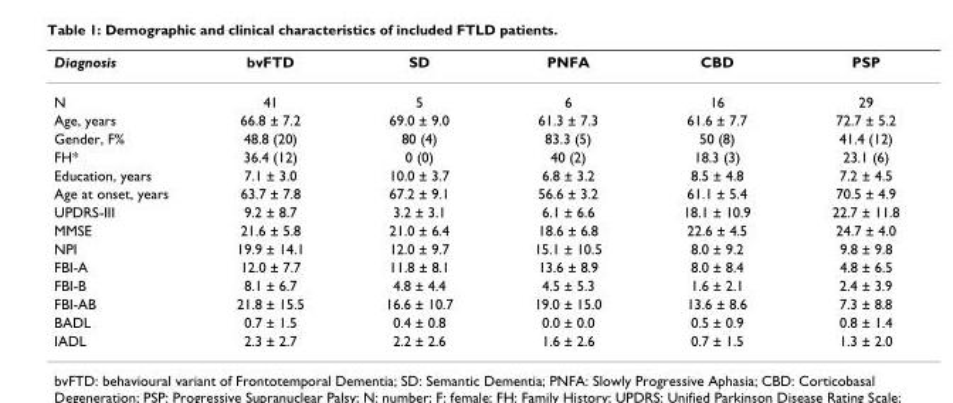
<table><thead><tr><td>Diagnosis</td><td>bvFTD</td><td>SD</td><td>PNFA</td><td>CBD</td><td>PSP</td></tr></thead><tbody><tr><td>N</td><td>41</td><td>5</td><td>6</td><td>16</td><td>29</td></tr><tr><td>Age, years</td><td>66.8 ± 7.2</td><td>69.0 ± 9.0</td><td>61.3 ± 7.3</td><td>61.6 ± 7.7</td><td>72.7 ± 5.2</td></tr><tr><td>Gender, F%</td><td>48.8 (20)</td><td>80 (4)</td><td>83.3 (5)</td><td>50 (8)</td><td>41.4 (12)</td></tr><tr><td>FH*</td><td>36.4 (12)</td><td>0 (0)</td><td>40 (2)</td><td>18.3 (3)</td><td>23.1 (6)</td></tr><tr><td>Education, years</td><td>7.1 ± 3.0</td><td>10.0 ± 3.7</td><td>6.8 ± 3.2</td><td>8.5 ± 4.8</td><td>7.2 ± 4.5</td></tr><tr><td>Age at onset, years</td><td>63.7 ± 7.8</td><td>67.2 ± 9.1</td><td>56.6 ± 3.2</td><td>61.1 ± 5.4</td><td>70.5 ± 4.9</td></tr><tr><td>UPDRS-III</td><td>9.2 ± 8.7</td><td>3.2 ± 3.1</td><td>6.1 ± 6.6</td><td>18.1 ± 10.9</td><td>22.7 ± 11.8</td></tr><tr><td>MMSE</td><td>21.6 ± 5.8</td><td>21.0 ± 6.4</td><td>18.6 ± 6.8</td><td>22.6 ± 4.5</td><td>24.7 ± 4.0</td></tr><tr><td>NPI</td><td>19.9 ± 14.1</td><td>12.0 ± 9.7</td><td>15.1 ± 10.5</td><td>8.0 ± 9.2</td><td>9.8 ± 9.8</td></tr><tr><td>FBI-A</td><td>12.0 ± 7.7</td><td>11.8 ± 8.1</td><td>13.6 ± 8.9</td><td>8.0 ± 8.4</td><td>4.8 ± 6.5</td></tr><tr><td>FBI-B</td><td>8.1 ± 6.7</td><td>4.8 ± 4.4</td><td>4.5 ± 5.3</td><td>1.6 ± 2.1</td><td>2.4 ± 3.9</td></tr><tr><td>FBI-AB</td><td>21.8 ± 15.5</td><td>16.6 ± 10.7</td><td>19.0 ± 15.0</td><td>13.6 ± 8.6</td><td>7.3 ± 8.8</td></tr><tr><td>BADL</td><td>0.7 ± 1.5</td><td>0.4 ± 0.8</td><td>0.0 ± 0.0</td><td>0.5 ± 0.9</td><td>0.8 ± 1.4</td></tr><tr><td>IADL</td><td>2.3 ± 2.7</td><td>2.2 ± 2.6</td><td>1.6 ± 2.6</td><td>0.7 ± 1.5</td><td>1.3 ± 2.0</td></tr></tbody></table>